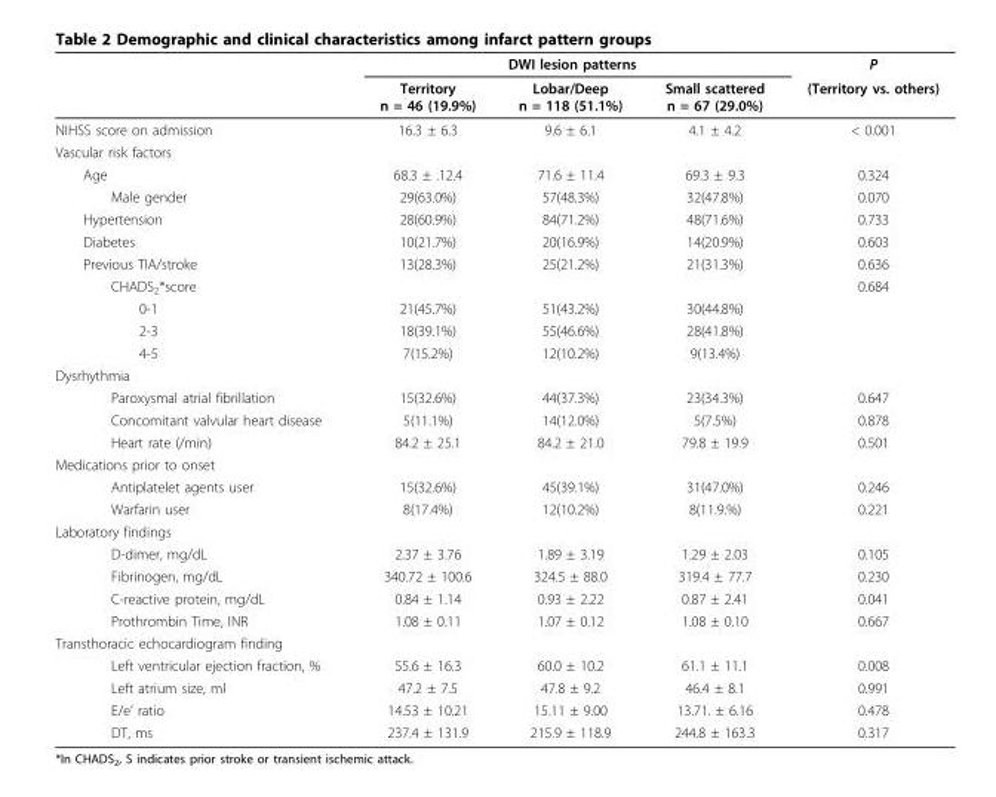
<table><thead><tr><td rowspan="2"></td><td colspan="3">DWI lesion patterns</td><td rowspan="2">P (Territory vs. others)</td></tr><tr><td>Territory n = 46 (19.9%)</td><td>Lobar/Deep n = 118 (51.1%)</td><td>Small scattered n = 67 (29.0%)</td></tr></thead><tbody><tr><td>NIHSS score on admission</td><td>16.3 ± 6.3</td><td>9.6 ± 6.1</td><td>4.1 ± 4.2</td><td>&lt; 0.001</td></tr><tr><td colspan="5">Vascular risk factors</td></tr><tr><td>Age</td><td>68.3 ± .12.4</td><td>71.6 ± 11.4</td><td>69.3 ± 9.3</td><td>0.324</td></tr><tr><td>Male gender</td><td>29(63.0%)</td><td>57(48.3%)</td><td>32(47.8%)</td><td>0.070</td></tr><tr><td>Hypertension</td><td>28(60.9%)</td><td>84(71.2%)</td><td>48(71.6%)</td><td>0.733</td></tr><tr><td>Diabetes</td><td>10(21.7%)</td><td>20(16.9%)</td><td>14(20.9%)</td><td>0.603</td></tr><tr><td>Previous TIA/stroke</td><td>13(28.3%)</td><td>25(21.2%)</td><td>21(31.3%)</td><td>0.636</td></tr><tr><td>CHADS<sub>2</sub>*score</td><td></td><td></td><td></td><td>0.684</td></tr><tr><td>0-1</td><td>21(45.7%)</td><td>51(43.2%)</td><td>30(44.8%)</td><td></td></tr><tr><td>2-3</td><td>18(39.1%)</td><td>55(46.6%)</td><td>28(41.8%)</td><td></td></tr><tr><td>4-5</td><td>7(15.2%)</td><td>12(10.2%)</td><td>9(13.4%)</td><td></td></tr><tr><td colspan="5">Dysrhythmia</td></tr><tr><td>Paroxysmal atrial fibrillation</td><td>15(32.6%)</td><td>44(37.3%)</td><td>23(34.3%)</td><td>0.647</td></tr><tr><td>Concomitant valvular heart disease</td><td>5(11.1%)</td><td>14(12.0%)</td><td>5(7.5%)</td><td>0.878</td></tr><tr><td>Heart rate (/min)</td><td>84.2 ± 25.1</td><td>84.2 ± 21.0</td><td>79.8 ± 19.9</td><td>0.501</td></tr><tr><td colspan="5">Medications prior to onset</td></tr><tr><td>Antiplatelet agents user</td><td>15(32.6%)</td><td>45(39.1%)</td><td>31(47.0%)</td><td>0.246</td></tr><tr><td>Warfarin user</td><td>8(17.4%)</td><td>12(10.2%)</td><td>8(11.9.%)</td><td>0.221</td></tr><tr><td colspan="5">Laboratory findings</td></tr><tr><td>D-dimer, mg/dL</td><td>2.37 ± 3.76</td><td>1.89 ± 3.19</td><td>1.29 ± 2.03</td><td>0.105</td></tr><tr><td>Fibrinogen, mg/dL</td><td>340.72 ± 100.6</td><td>324.5 ± 88.0</td><td>319.4 ± 77.7</td><td>0.230</td></tr><tr><td>C-reactive protein, mg/dL</td><td>0.84 ± 1.14</td><td>0.93 ± 2.22</td><td>0.87 ± 2.41</td><td>0.041</td></tr><tr><td>Prothrombin Time, INR</td><td>1.08 ± 0.11</td><td>1.07 ± 0.12</td><td>1.08 ± 0.10</td><td>0.667</td></tr><tr><td colspan="5">Transthoracic echocardiogram finding</td></tr><tr><td>Left ventricular ejection fraction, %</td><td>55.6 ± 16.3</td><td>60.0 ± 10.2</td><td>61.1 ± 11.1</td><td>0.008</td></tr><tr><td>Left atrium size, ml</td><td>47.2 ± 7.5</td><td>47.8 ± 9.2</td><td>46.4 ± 8.1</td><td>0.991</td></tr><tr><td>E/e’ ratio</td><td>14.53 ± 10.21</td><td>15.11 ± 9.00</td><td>13.71. ± 6.16</td><td>0.478</td></tr><tr><td>DT, ms</td><td>237.4 ± 131.9</td><td>215.9 ± 118.9</td><td>244.8 ± 163.3</td><td>0.317</td></tr></tbody></table>